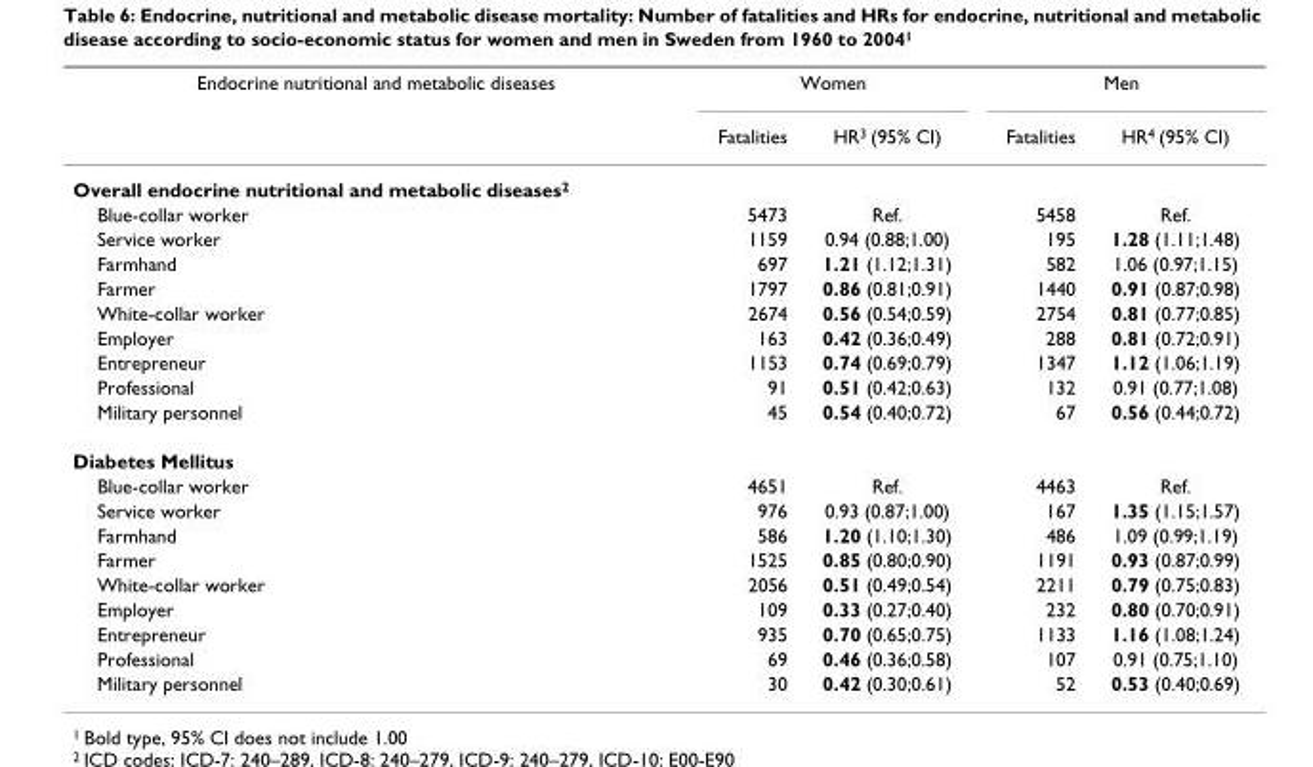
<table><thead><tr><td rowspan="2">Endocrine nutritional and metabolic diseases</td><td colspan="2">Women</td><td colspan="2">Men</td></tr><tr><td>Fatalities</td><td>HR<sup>3</sup> (95% CI)</td><td>Fatalities</td><td>HR<sup>4</sup> (95% CI)</td></tr></thead><tbody><tr><td colspan="5">Overall endocrine nutritional and metabolic diseases<sup>2</sup></td></tr><tr><td>Blue-collar worker</td><td>5473</td><td>Ref.</td><td>5458</td><td>Ref.</td></tr><tr><td>Service worker</td><td>1159</td><td>0.94 (0.88;1.00)</td><td>195</td><td>1.28 (1.11;1.48)</td></tr><tr><td>Farmhand</td><td>697</td><td>1.21 (1.12;1.31)</td><td>582</td><td>1.06 (0.97;1.15)</td></tr><tr><td>Farmer</td><td>1797</td><td>0.86 (0.81;0.91)</td><td>1440</td><td>0.91 (0.87;0.98)</td></tr><tr><td>White-collar worker</td><td>2674</td><td>0.56 (0.54;0.59)</td><td>2754</td><td>0.81 (0.77;0.85)</td></tr><tr><td>Employer</td><td>163</td><td>0.42 (0.36;0.49)</td><td>288</td><td>0.81 (0.72;0.91)</td></tr><tr><td>Entrepreneur</td><td>1153</td><td>0.74 (0.69;0.79)</td><td>1347</td><td>1.12 (1.06;1.19)</td></tr><tr><td>Professional</td><td>91</td><td>0.51 (0.42;0.63)</td><td>132</td><td>0.91 (0.77;1.08)</td></tr><tr><td>Military personnel</td><td>45</td><td>0.54 (0.40;0.72)</td><td>67</td><td>0.56 (0.44;0.72)</td></tr><tr><td colspan="5">Diabetes Mellitus</td></tr><tr><td>Blue-collar worker</td><td>4651</td><td>Ref.</td><td>4463</td><td>Ref.</td></tr><tr><td>Service worker</td><td>976</td><td>0.93 (0.87;1.00)</td><td>167</td><td>1.35 (1.15;1.57)</td></tr><tr><td>Farmhand</td><td>586</td><td>1.20 (1.10;1.30)</td><td>486</td><td>1.09 (0.99;1.19)</td></tr><tr><td>Farmer</td><td>1525</td><td>0.85 (0.80;0.90)</td><td>1191</td><td>0.93 (0.87;0.99)</td></tr><tr><td>White-collar worker</td><td>2056</td><td>0.51 (0.49;0.54)</td><td>2211</td><td>0.79 (0.75;0.83)</td></tr><tr><td>Employer</td><td>109</td><td>0.33 (0.27;0.40)</td><td>232</td><td>0.80 (0.70;0.91)</td></tr><tr><td>Entrepreneur</td><td>935</td><td>0.70 (0.65;0.75)</td><td>1133</td><td>1.16 (1.08;1.24)</td></tr><tr><td>Professional</td><td>69</td><td>0.46 (0.36;0.58)</td><td>107</td><td>0.91 (0.75;1.10)</td></tr><tr><td>Military personnel</td><td>30</td><td>0.42 (0.30;0.61)</td><td>52</td><td>0.53 (0.40;0.69)</td></tr></tbody></table>